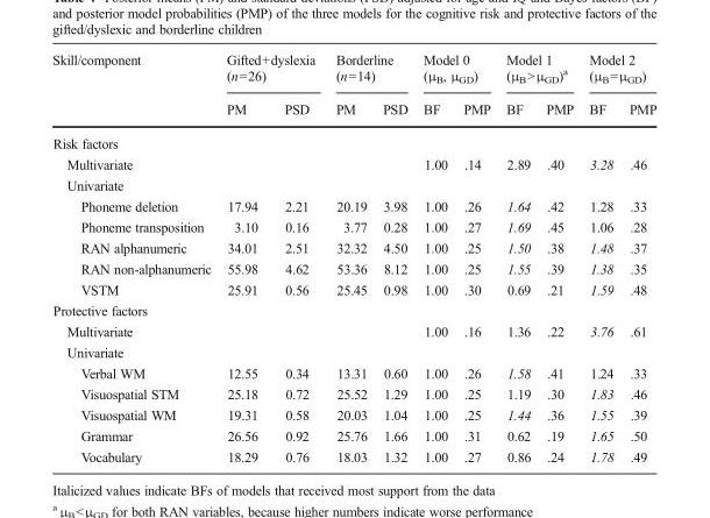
<table><thead><tr><td rowspan="2">Skill/component</td><td colspan="2">Gifted+dyslexia (n=26)</td><td colspan="2">Borderline (n=14)</td><td colspan="2">Model 0 (μ<sub>B</sub>, μ<sub>GD</sub>)</td><td colspan="2">Model 1 (μ<sub>B</sub>&gt;μ<sub>GD</sub>)<sup>a</sup></td><td colspan="2">Model 2 (μ<sub>B</sub>=μ<sub>GD</sub>)</td></tr><tr><td>PM</td><td>PSD</td><td>PM</td><td>PSD</td><td>BF</td><td>PMP</td><td>BF</td><td>PMP</td><td>BF</td><td>PMP</td></tr></thead><tbody><tr><td colspan="11">Risk factors</td></tr><tr><td>Multivariate</td><td></td><td></td><td></td><td></td><td>1.00</td><td>.14</td><td>2.89</td><td>.40</td><td>3.28</td><td>.46</td></tr><tr><td colspan="11">Univariate</td></tr><tr><td>Phoneme deletion</td><td>17.94</td><td>2.21</td><td>20.19</td><td>3.98</td><td>1.00</td><td>.26</td><td>1.64</td><td>.42</td><td>1.28</td><td>.33</td></tr><tr><td>Phoneme transposition</td><td>3.10</td><td>0.16</td><td>3.77</td><td>0.28</td><td>1.00</td><td>.27</td><td>1.69</td><td>.45</td><td>1.06</td><td>.28</td></tr><tr><td>RAN alphanumeric</td><td>34.01</td><td>2.51</td><td>32.32</td><td>4.50</td><td>1.00</td><td>.25</td><td>1.50</td><td>.38</td><td>1.48</td><td>.37</td></tr><tr><td>RAN non-alphanumeric</td><td>55.98</td><td>4.62</td><td>53.36</td><td>8.12</td><td>1.00</td><td>.25</td><td>1.55</td><td>.39</td><td>1.38</td><td>.35</td></tr><tr><td>VSTM</td><td>25.91</td><td>0.56</td><td>25.45</td><td>0.98</td><td>1.00</td><td>.30</td><td>0.69</td><td>.21</td><td>1.59</td><td>.48</td></tr><tr><td colspan="11">Protective factors</td></tr><tr><td>Multivariate</td><td></td><td></td><td></td><td></td><td>1.00</td><td>.16</td><td>1.36</td><td>.22</td><td>3.76</td><td>.61</td></tr><tr><td colspan="11">Univariate</td></tr><tr><td>Verbal WM</td><td>12.55</td><td>0.34</td><td>13.31</td><td>0.60</td><td>1.00</td><td>.26</td><td>1.58</td><td>.41</td><td>1.24</td><td>.33</td></tr><tr><td>Visuospatial STM</td><td>25.18</td><td>0.72</td><td>25.52</td><td>1.29</td><td>1.00</td><td>.25</td><td>1.19</td><td>.30</td><td>1.83</td><td>.46</td></tr><tr><td>Visuospatial WM</td><td>19.31</td><td>0.58</td><td>20.03</td><td>1.04</td><td>1.00</td><td>.25</td><td>1.44</td><td>.36</td><td>1.55</td><td>.39</td></tr><tr><td>Grammar</td><td>26.56</td><td>0.92</td><td>25.76</td><td>1.66</td><td>1.00</td><td>.31</td><td>0.62</td><td>.19</td><td>1.65</td><td>.50</td></tr><tr><td>Vocabulary</td><td>18.29</td><td>0.76</td><td>18.03</td><td>1.32</td><td>1.00</td><td>.27</td><td>0.86</td><td>.24</td><td>1.78</td><td>.49</td></tr></tbody></table>